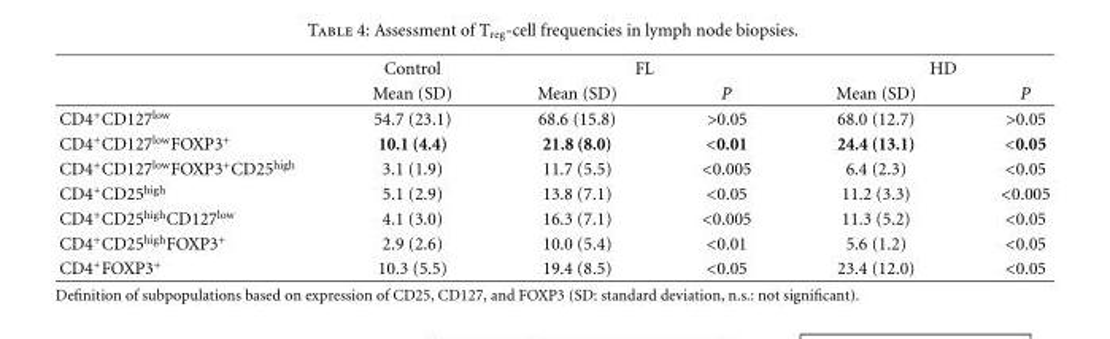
<table><thead><tr><td rowspan="2"></td><td rowspan="2">Control Mean (SD)</td><td colspan="2">FL</td><td colspan="2">HD</td></tr><tr><td>Mean (SD)</td><td>P</td><td>Mean (SD)</td><td>P</td></tr></thead><tbody><tr><td>CD4<sup>+</sup>CD127<sup>low</sup></td><td>54.7 (23.1)</td><td>68.6 (15.8)</td><td>&gt;0.05</td><td>68.0 (12.7)</td><td>&gt;0.05</td></tr><tr><td>CD4<sup>+</sup>CD127<sup>low</sup>FOXP3<sup>+</sup></td><td>10.1 (4.4)</td><td>21.8 (8.0)</td><td>&lt;0.01</td><td>24.4 (13.1)</td><td>&lt;0.05</td></tr><tr><td>CD4<sup>+</sup>CD127<sup>low</sup>FOXP3<sup>+</sup>CD25<sup>high</sup></td><td>3.1 (1.9)</td><td>11.7 (5.5)</td><td>&lt;0.005</td><td>6.4 (2.3)</td><td>&lt;0.05</td></tr><tr><td>CD4<sup>+</sup>CD25<sup>high</sup></td><td>5.1 (2.9)</td><td>13.8 (7.1)</td><td>&lt;0.05</td><td>11.2 (3.3)</td><td>&lt;0.005</td></tr><tr><td>CD4<sup>+</sup>CD25<sup>high</sup>CD127<sup>low</sup></td><td>4.1 (3.0)</td><td>16.3 (7.1)</td><td>&lt;0.005</td><td>11.3 (5.2)</td><td>&lt;0.05</td></tr><tr><td>CD4<sup>+</sup>CD25<sup>high</sup>FOXP3<sup>+</sup></td><td>2.9 (2.6)</td><td>10.0 (5.4)</td><td>&lt;0.01</td><td>5.6 (1.2)</td><td>&lt;0.05</td></tr><tr><td>CD4<sup>+</sup>FOXP3<sup>+</sup></td><td>10.3 (5.5)</td><td>19.4 (8.5)</td><td>&lt;0.05</td><td>23.4 (12.0)</td><td>&lt;0.05</td></tr></tbody></table>